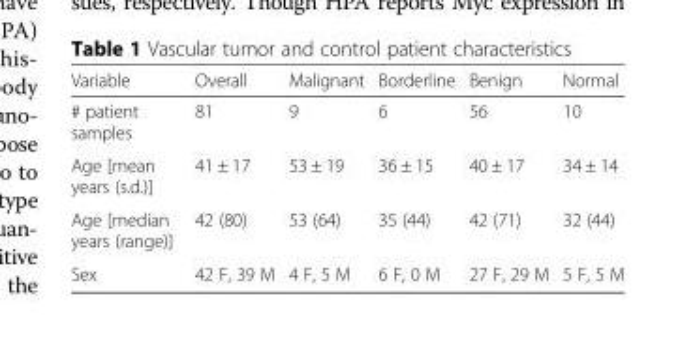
<table><thead><tr><td>Variable</td><td>Overall</td><td>Malignant</td><td>Borderline</td><td>Benign</td><td>Normal</td></tr></thead><tbody><tr><td># patient samples</td><td>81</td><td>9</td><td>6</td><td>56</td><td>10</td></tr><tr><td>Age [mean years (s.d.)]</td><td>41 ± 17</td><td>53 ± 19</td><td>36 ± 15</td><td>40 ± 17</td><td>34 ± 14</td></tr><tr><td>Age [median years (range)]</td><td>42 (80)</td><td>53 (64)</td><td>35 (44)</td><td>42 (71)</td><td>32 (44)</td></tr><tr><td>Sex</td><td>42 F, 39 M</td><td>4 F, 5 M</td><td>6 F, 0 M</td><td>27 F, 29 M</td><td>5 F, 5 M</td></tr></tbody></table>